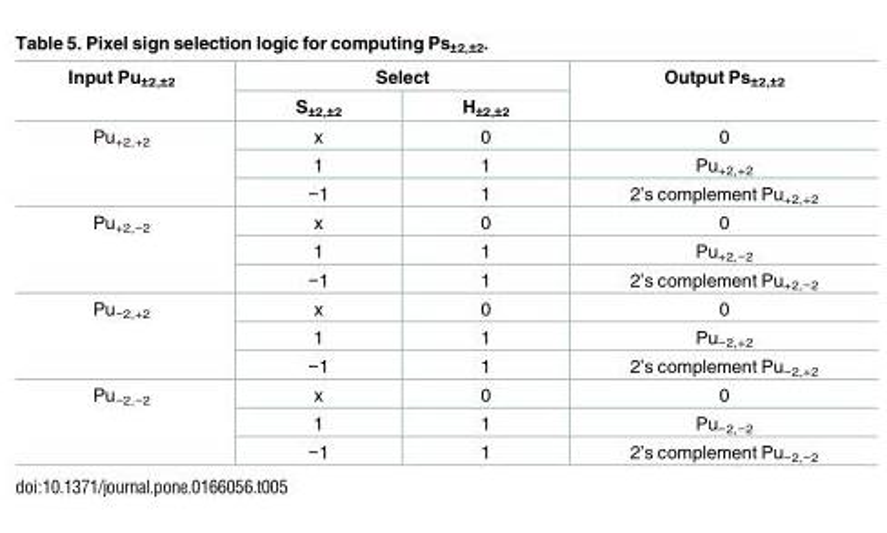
<table><thead><tr><td rowspan="2">Input Pu<sub>±2,±2</sub></td><td colspan="2">Select</td><td rowspan="2">Output Ps<sub>±2,±2</sub></td></tr><tr><td>S<sub>±2,±2</sub></td><td>H<sub>±2,±2</sub></td></tr></thead><tbody><tr><td rowspan="3">Pu<sub>+2,+2</sub></td><td>x</td><td>0</td><td>0</td></tr><tr><td>1</td><td>1</td><td>Pu<sub>+2,+2</sub></td></tr><tr><td>−1</td><td>1</td><td>2’s complement Pu<sub>+2,+2</sub></td></tr><tr><td rowspan="3">Pu<sub>+2,−2</sub></td><td>x</td><td>0</td><td>0</td></tr><tr><td>1</td><td>1</td><td>Pu<sub>+2,−2</sub></td></tr><tr><td>−1</td><td>1</td><td>2’s complement Pu<sub>+2,−2</sub></td></tr><tr><td rowspan="3">Pu<sub>−2,+2</sub></td><td>x</td><td>0</td><td>0</td></tr><tr><td>1</td><td>1</td><td>Pu<sub>−2,+2</sub></td></tr><tr><td>−1</td><td>1</td><td>2’s complement Pu<sub>−2,+2</sub></td></tr><tr><td rowspan="3">Pu<sub>−2,−2</sub></td><td>x</td><td>0</td><td>0</td></tr><tr><td>1</td><td>1</td><td>Pu<sub>−2,−2</sub></td></tr><tr><td>−1</td><td>1</td><td>2’s complement Pu<sub>−2,−2</sub></td></tr></tbody></table>